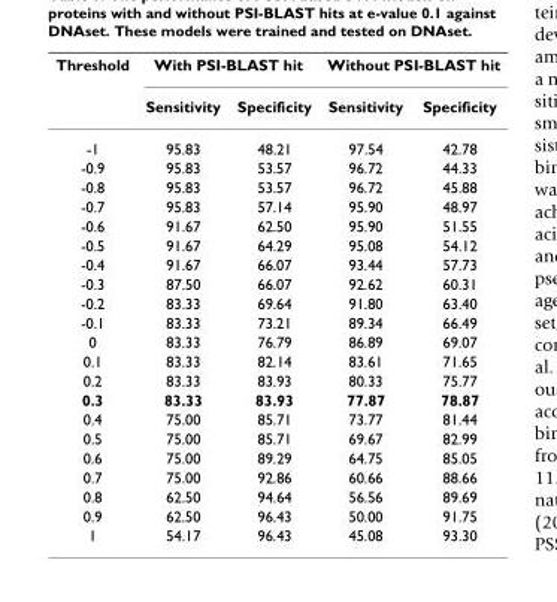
<table><thead><tr><td rowspan="2">Threshold</td><td colspan="2">With PSI-BLAST hit</td><td colspan="2">Without PSI-BLAST hit</td></tr><tr><td>Sensitivity</td><td>Specificity</td><td>Sensitivity</td><td>Specificity</td></tr></thead><tbody><tr><td>-1</td><td>95.83</td><td>48.21</td><td>97.54</td><td>42.78</td></tr><tr><td>-0.9</td><td>95.83</td><td>53.57</td><td>96.72</td><td>44.33</td></tr><tr><td>-0.8</td><td>95.83</td><td>53.57</td><td>96.72</td><td>45.88</td></tr><tr><td>-0.7</td><td>95.83</td><td>57.14</td><td>95.90</td><td>48.97</td></tr><tr><td>-0.6</td><td>91.67</td><td>62.50</td><td>95.90</td><td>51.55</td></tr><tr><td>-0.5</td><td>91.67</td><td>64.29</td><td>95.08</td><td>54.12</td></tr><tr><td>-0.4</td><td>91.67</td><td>66.07</td><td>93.44</td><td>57.73</td></tr><tr><td>-0.3</td><td>87.50</td><td>66.07</td><td>92.62</td><td>60.31</td></tr><tr><td>-0.2</td><td>83.33</td><td>69.64</td><td>91.80</td><td>63.40</td></tr><tr><td>-0.1</td><td>83.33</td><td>73.21</td><td>89.34</td><td>66.49</td></tr><tr><td>0</td><td>83.33</td><td>76.79</td><td>86.89</td><td>69.07</td></tr><tr><td>0.1</td><td>83.33</td><td>82.14</td><td>83.61</td><td>71.65</td></tr><tr><td>0.2</td><td>83.33</td><td>83.93</td><td>80.33</td><td>75.77</td></tr><tr><td>0.3</td><td>83.33</td><td>83.93</td><td>77.87</td><td>78.87</td></tr><tr><td>0.4</td><td>75.00</td><td>85.71</td><td>73.77</td><td>81.44</td></tr><tr><td>0.5</td><td>75.00</td><td>85.71</td><td>69.67</td><td>82.99</td></tr><tr><td>0.6</td><td>75.00</td><td>89.29</td><td>64.75</td><td>85.05</td></tr><tr><td>0.7</td><td>75.00</td><td>92.86</td><td>60.66</td><td>88.66</td></tr><tr><td>0.8</td><td>62.50</td><td>94.64</td><td>56.56</td><td>89.69</td></tr><tr><td>0.9</td><td>62.50</td><td>96.43</td><td>50.00</td><td>91.75</td></tr><tr><td>1</td><td>54.17</td><td>96.43</td><td>45.08</td><td>93.30</td></tr></tbody></table>